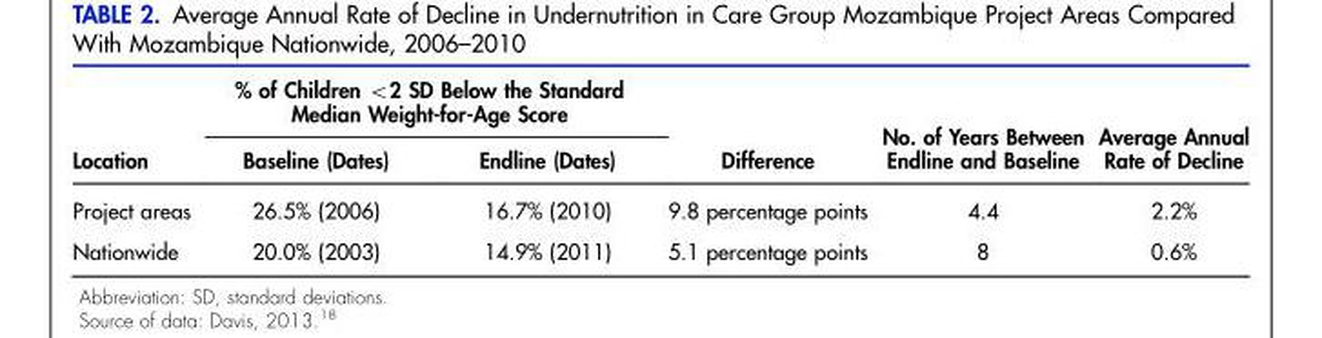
<table><thead><tr><td rowspan="2">Location</td><td colspan="2">% of Children &lt;2 SD Below the Standard Median Weight-for-Age Score</td><td rowspan="2">Difference</td><td rowspan="2">No. of Years Between Endline and Baseline</td><td rowspan="2">Average Annual Rate of Decline</td></tr><tr><td>Baseline (Dates)</td><td>Endline (Dates)</td></tr></thead><tbody><tr><td>Project areas</td><td>26.5% (2006)</td><td>16.7% (2010)</td><td>9.8 percentage points</td><td>4.4</td><td>2.2%</td></tr><tr><td>Nationwide</td><td>20.0% (2003)</td><td>14.9% (2011)</td><td>5.1 percentage points</td><td>8</td><td>0.6%</td></tr></tbody></table>